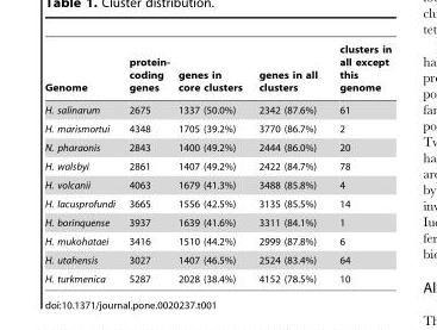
<table><thead><tr><td>Genome</td><td>protein- coding genes</td><td>genes in core clusters</td><td>genes in all clusters</td><td>clusters in all except this genome</td></tr></thead><tbody><tr><td>H. salinarum</td><td>2675</td><td>1337 (50.0%)</td><td>2342 (87.6%)</td><td>61</td></tr><tr><td>H. marismortui</td><td>4348</td><td>1705 (39.2%)</td><td>3770 (86.7%)</td><td>2</td></tr><tr><td>N. pharaonis</td><td>2843</td><td>1400 (49.2%)</td><td>2444 (86.0%)</td><td>20</td></tr><tr><td>H. walsbyi</td><td>2861</td><td>1407 (49.2%)</td><td>2422 (84.7%)</td><td>78</td></tr><tr><td>H. volcanii</td><td>4063</td><td>1679 (41.3%)</td><td>3488 (85.8%)</td><td>4</td></tr><tr><td>H. lacusprofundi</td><td>3665</td><td>1556 (42.5%)</td><td>3135 (85.5%)</td><td>14</td></tr><tr><td>H. borinquense</td><td>3937</td><td>1639 (41.6%)</td><td>3311 (84.1%)</td><td>1</td></tr><tr><td>H. mukohataei</td><td>3416</td><td>1510 (44.2%)</td><td>2999 (87.8%)</td><td>6</td></tr><tr><td>H. utahensis</td><td>3027</td><td>1407 (46.5%)</td><td>2524 (83.4%)</td><td>64</td></tr><tr><td>H. turkmenica</td><td>5287</td><td>2028 (38.4%)</td><td>4152 (78.5%)</td><td>10</td></tr></tbody></table>